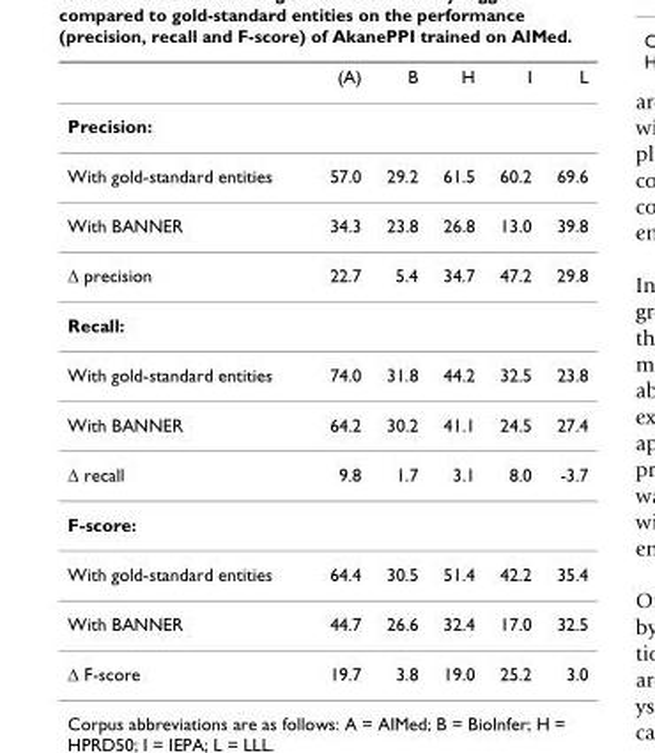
<table><thead><tr><td></td><td>(A)</td><td>B</td><td>H</td><td>I</td><td>L</td></tr></thead><tbody><tr><td colspan="6">Precision:</td></tr><tr><td>With gold-standard entities</td><td>57.0</td><td>29.2</td><td>61.5</td><td>60.2</td><td>69.6</td></tr><tr><td>With BANNER</td><td>34.3</td><td>23.8</td><td>26.8</td><td>13.0</td><td>39.8</td></tr><tr><td>Δ precision</td><td>22.7</td><td>5.4</td><td>34.7</td><td>47.2</td><td>29.8</td></tr><tr><td colspan="6">Recall:</td></tr><tr><td>With gold-standard entities</td><td>74.0</td><td>31.8</td><td>44.2</td><td>32.5</td><td>23.8</td></tr><tr><td>With BANNER</td><td>64.2</td><td>30.2</td><td>41.1</td><td>24.5</td><td>27.4</td></tr><tr><td>Δ recall</td><td>9.8</td><td>1.7</td><td>3.1</td><td>8.0</td><td>-3.7</td></tr><tr><td colspan="6">F-score:</td></tr><tr><td>With gold-standard entities</td><td>64.4</td><td>30.5</td><td>51.4</td><td>42.2</td><td>35.4</td></tr><tr><td>With BANNER</td><td>44.7</td><td>26.6</td><td>32.4</td><td>17.0</td><td>32.5</td></tr><tr><td>Δ F-score</td><td>19.7</td><td>3.8</td><td>19.0</td><td>25.2</td><td>3.0</td></tr></tbody></table>